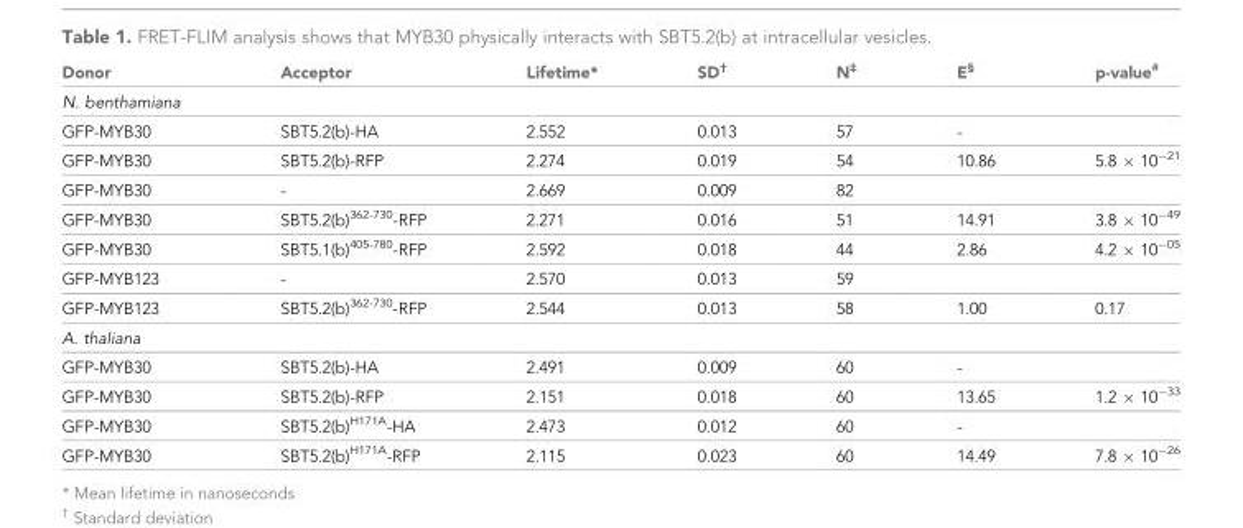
<table><thead><tr><td>Donor</td><td>Acceptor</td><td>Lifetime*</td><td>SD<sup>†</sup></td><td>N<sup>‡</sup></td><td>E<sup>§</sup></td><td>p-value<sup>#</sup></td></tr></thead><tbody><tr><td colspan="7">N. benthamiana</td></tr><tr><td>GFP-MYB30</td><td>SBT5.2(b)-HA</td><td>2.552</td><td>0.013</td><td>57</td><td>-</td><td></td></tr><tr><td>GFP-MYB30</td><td>SBT5.2(b)-RFP</td><td>2.274</td><td>0.019</td><td>54</td><td>10.86</td><td>5.8 × 10<sup>−21</sup></td></tr><tr><td>GFP-MYB30</td><td>-</td><td>2.669</td><td>0.009</td><td>82</td><td></td><td></td></tr><tr><td>GFP-MYB30</td><td>SBT5.2(b)<sup>362-730</sup>-RFP</td><td>2.271</td><td>0.016</td><td>51</td><td>14.91</td><td>3.8 × 10<sup>−49</sup></td></tr><tr><td>GFP-MYB30</td><td>SBT5.1(b)<sup>405-780</sup>-RFP</td><td>2.592</td><td>0.018</td><td>44</td><td>2.86</td><td>4.2 × 10<sup>−05</sup></td></tr><tr><td>GFP-MYB123</td><td>-</td><td>2.570</td><td>0.013</td><td>59</td><td></td><td></td></tr><tr><td>GFP-MYB123</td><td>SBT5.2(b)<sup>362-730</sup>-RFP</td><td>2.544</td><td>0.013</td><td>58</td><td>1.00</td><td>0.17</td></tr><tr><td colspan="7">A. thaliana</td></tr><tr><td>GFP-MYB30</td><td>SBT5.2(b)-HA</td><td>2.491</td><td>0.009</td><td>60</td><td>-</td><td></td></tr><tr><td>GFP-MYB30</td><td>SBT5.2(b)-RFP</td><td>2.151</td><td>0.018</td><td>60</td><td>13.65</td><td>1.2 × 10<sup>−33</sup></td></tr><tr><td>GFP-MYB30</td><td>SBT5.2(b)<sup>H171A</sup>-HA</td><td>2.473</td><td>0.012</td><td>60</td><td>-</td><td></td></tr><tr><td>GFP-MYB30</td><td>SBT5.2(b)<sup>H171A</sup>-RFP</td><td>2.115</td><td>0.023</td><td>60</td><td>14.49</td><td>7.8 × 10<sup>−26</sup></td></tr></tbody></table>